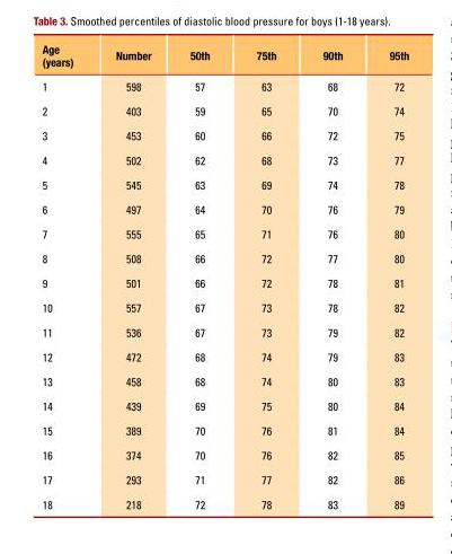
<table><thead><tr><td>Age (years)</td><td>Number</td><td>50th</td><td>75th</td><td>90th</td><td>95th</td></tr></thead><tbody><tr><td>1</td><td>598</td><td>57</td><td>63</td><td>68</td><td>72</td></tr><tr><td>2</td><td>403</td><td>59</td><td>65</td><td>70</td><td>74</td></tr><tr><td>3</td><td>453</td><td>60</td><td>66</td><td>72</td><td>75</td></tr><tr><td>4</td><td>502</td><td>62</td><td>68</td><td>73</td><td>77</td></tr><tr><td>5</td><td>545</td><td>63</td><td>69</td><td>74</td><td>78</td></tr><tr><td>6</td><td>497</td><td>64</td><td>70</td><td>76</td><td>79</td></tr><tr><td>7</td><td>555</td><td>65</td><td>71</td><td>76</td><td>80</td></tr><tr><td>8</td><td>508</td><td>66</td><td>72</td><td>77</td><td>80</td></tr><tr><td>9</td><td>501</td><td>66</td><td>72</td><td>78</td><td>81</td></tr><tr><td>10</td><td>557</td><td>67</td><td>73</td><td>78</td><td>82</td></tr><tr><td>11</td><td>536</td><td>67</td><td>73</td><td>79</td><td>82</td></tr><tr><td>12</td><td>472</td><td>68</td><td>74</td><td>79</td><td>83</td></tr><tr><td>13</td><td>458</td><td>68</td><td>74</td><td>80</td><td>83</td></tr><tr><td>14</td><td>439</td><td>69</td><td>75</td><td>80</td><td>84</td></tr><tr><td>15</td><td>389</td><td>70</td><td>76</td><td>81</td><td>84</td></tr><tr><td>16</td><td>374</td><td>70</td><td>76</td><td>82</td><td>85</td></tr><tr><td>17</td><td>293</td><td>71</td><td>77</td><td>82</td><td>86</td></tr><tr><td>18</td><td>218</td><td>72</td><td>78</td><td>83</td><td>89</td></tr></tbody></table>